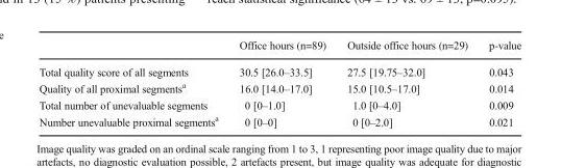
<table><thead><tr><td></td><td>Office hours (n=89)</td><td>Outside office hours (n=29)</td><td>p-value</td></tr></thead><tbody><tr><td>Total quality score of all segments</td><td>30.5 [26.0–33.5]</td><td>27.5 [19.75–32.0]</td><td>0.043</td></tr><tr><td>Quality of all proximal segments<sup>a</sup></td><td>16.0 [14.0–17.0]</td><td>15.0 [10.5–17.0]</td><td>0.014</td></tr><tr><td>Total number of unevaluable segments</td><td>0 [0–1.0]</td><td>1.0 [0–4.0]</td><td>0.009</td></tr><tr><td>Number unevaluable proximal segments<sup>a</sup></td><td>0 [0–0]</td><td>0 [0–2.0]</td><td>0.021</td></tr></tbody></table>